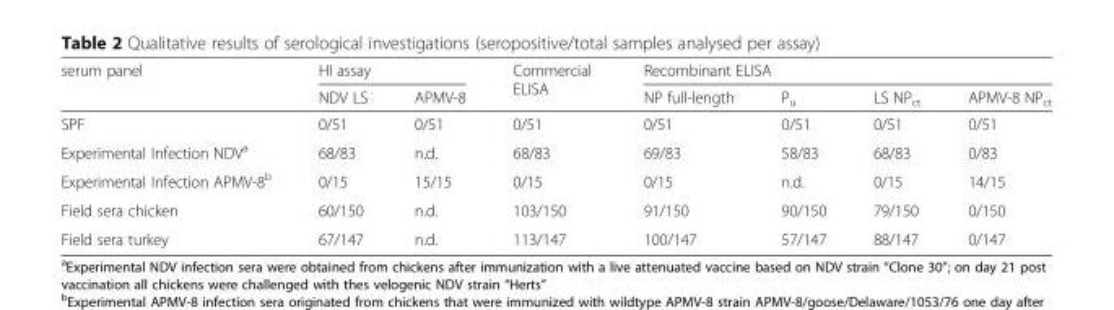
<table><thead><tr><td rowspan="2">serum panel</td><td colspan="2">HI assay</td><td rowspan="2">Commercial ELISA</td><td colspan="4">Recombinant ELISA</td></tr><tr><td>NDV LS</td><td>APMV-8</td><td>NP full-length</td><td>P<sub>u</sub></td><td>LS NP<sub>ct</sub></td><td>APMV-8 NP<sub>ct</sub></td></tr></thead><tbody><tr><td>SPF</td><td>0/51</td><td>0/51</td><td>0/51</td><td>0/51</td><td>0/51</td><td>0/51</td><td>0/51</td></tr><tr><td>Experimental Infection NDV<sup>a</sup></td><td>68/83</td><td>n.d.</td><td>68/83</td><td>69/83</td><td>58/83</td><td>68/83</td><td>0/83</td></tr><tr><td>Experimental Infection APMV-8<sup>b</sup></td><td>0/15</td><td>15/15</td><td>0/15</td><td>0/15</td><td>n.d.</td><td>0/15</td><td>14/15</td></tr><tr><td>Field sera chicken</td><td>60/150</td><td>n.d.</td><td>103/150</td><td>91/150</td><td>90/150</td><td>79/150</td><td>0/150</td></tr><tr><td>Field sera turkey</td><td>67/147</td><td>n.d.</td><td>113/147</td><td>100/147</td><td>57/147</td><td>88/147</td><td>0/147</td></tr></tbody></table>